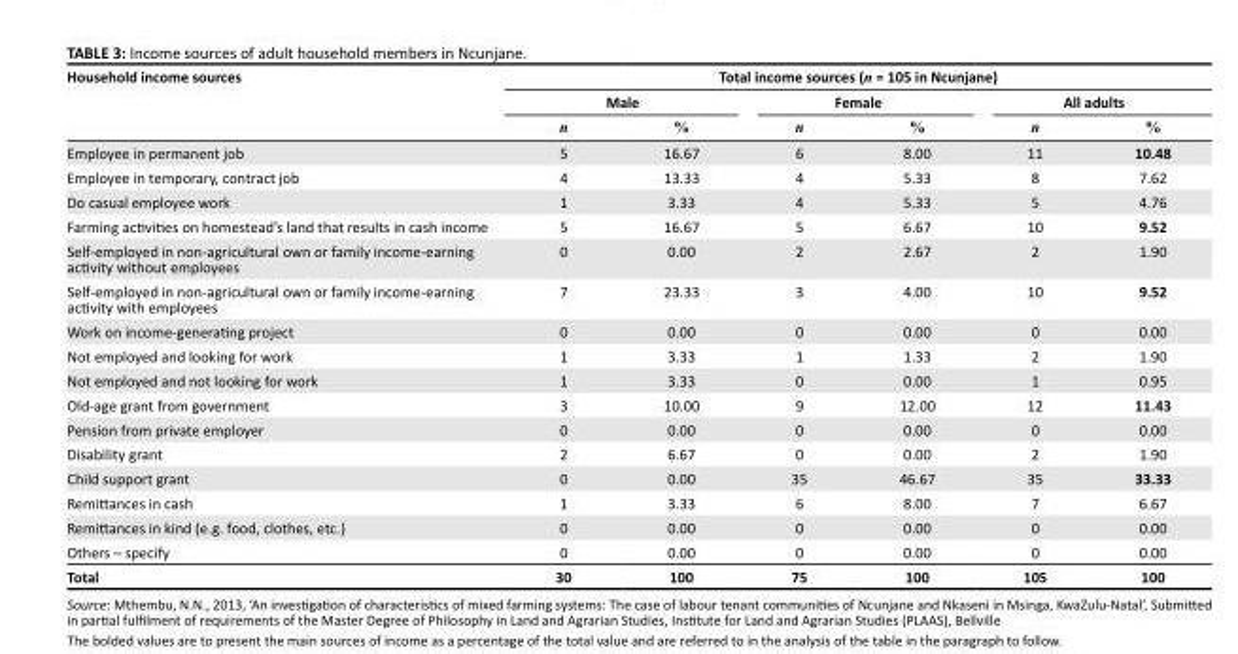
<table><thead><tr><td rowspan="3">Household income sources</td><td colspan="6">Total income sources (n = 105 in Ncunjane)</td></tr><tr><td colspan="2">Male</td><td colspan="2">Female</td><td colspan="2">All adults</td></tr><tr><td>n</td><td>%</td><td>n</td><td>%</td><td>n</td><td>%</td></tr></thead><tbody><tr><td>Employee in permanent job</td><td>5</td><td>16.67</td><td>6</td><td>8.00</td><td>11</td><td>10.48</td></tr><tr><td>Employee in temporary, contract job</td><td>4</td><td>13.33</td><td>4</td><td>5.33</td><td>8</td><td>7.62</td></tr><tr><td>Do casual employee work</td><td>1</td><td>3.33</td><td>4</td><td>5.33</td><td>5</td><td>4.76</td></tr><tr><td>Farming activities on homestead’s land that results in cash income</td><td>5</td><td>16.67</td><td>5</td><td>6.67</td><td>10</td><td>9.52</td></tr><tr><td>Self-employed in non-agricultural own or family income-earning activity without employees</td><td>0</td><td>0.00</td><td>2</td><td>2.67</td><td>2</td><td>1.90</td></tr><tr><td>Self-employed in non-agricultural own or family income-earning activity with employees</td><td>7</td><td>23.33</td><td>3</td><td>4.00</td><td>10</td><td>9.52</td></tr><tr><td>Work on income-generating project</td><td>0</td><td>0.00</td><td>0</td><td>0.00</td><td>0</td><td>0.00</td></tr><tr><td>Not employed and looking for work</td><td>1</td><td>3.33</td><td>1</td><td>1.33</td><td>2</td><td>1.90</td></tr><tr><td>Not employed and not looking for work</td><td>1</td><td>3.33</td><td>0</td><td>0.00</td><td>1</td><td>0.95</td></tr><tr><td>Old-age grant from government</td><td>3</td><td>10.00</td><td>9</td><td>12.00</td><td>12</td><td>11.43</td></tr><tr><td>Pension from private employer</td><td>0</td><td>0.00</td><td>0</td><td>0.00</td><td>0</td><td>0.00</td></tr><tr><td>Disability grant</td><td>2</td><td>6.67</td><td>0</td><td>0.00</td><td>2</td><td>1.90</td></tr><tr><td>Child support grant</td><td>0</td><td>0.00</td><td>35</td><td>46.67</td><td>35</td><td>33.33</td></tr><tr><td>Remittances in cash</td><td>1</td><td>3.33</td><td>6</td><td>8.00</td><td>7</td><td>6.67</td></tr><tr><td>Remittances in kind (e.g. food, clothes, etc.)</td><td>0</td><td>0.00</td><td>0</td><td>0.00</td><td>0</td><td>0.00</td></tr><tr><td>Others – specify</td><td>0</td><td>0.00</td><td>0</td><td>0.00</td><td>0</td><td>0.00</td></tr><tr><td>Total</td><td>30</td><td>100</td><td>75</td><td>100</td><td>105</td><td>100</td></tr></tbody></table>